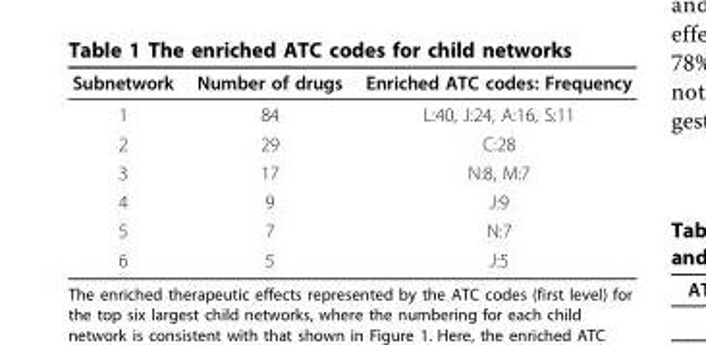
<table><thead><tr><td>Subnetwork</td><td>Number of drugs</td><td>Enriched ATC codes: Frequency</td></tr></thead><tbody><tr><td>1</td><td>84</td><td>L:40, J:24, A:16, S:11</td></tr><tr><td>2</td><td>29</td><td>C:28</td></tr><tr><td>3</td><td>17</td><td>N:8, M:7</td></tr><tr><td>4</td><td>9</td><td>J:9</td></tr><tr><td>5</td><td>7</td><td>N:7</td></tr><tr><td>6</td><td>5</td><td>J:5</td></tr></tbody></table>